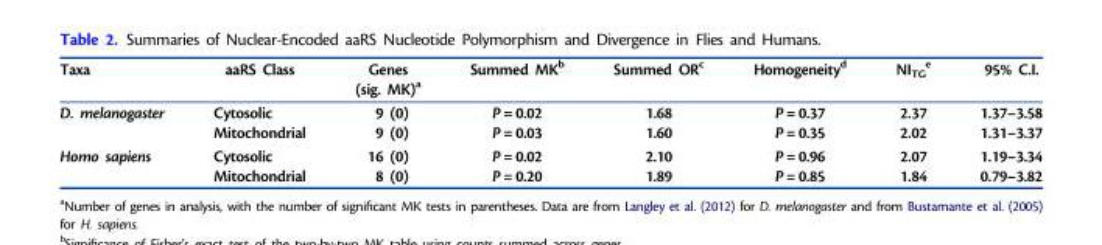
<table><thead><tr><td>Taxa</td><td>aaRS Class</td><td>Genes (sig. MK)<sup>a</sup></td><td>Summed MK<sup>b</sup></td><td>Summed OR<sup>c</sup></td><td>Homogeneity<sup>d</sup></td><td>NI<sub>TG</sub> <sup>e</sup></td><td>95% C.I.</td></tr></thead><tbody><tr><td rowspan="2">D. melanogaster</td><td>Cytosolic</td><td>9 (0)</td><td>P=0.02</td><td>1.68</td><td>P=0.37</td><td>2.37</td><td>1.37–3.58</td></tr><tr><td>Mitochondrial</td><td>9 (0)</td><td>P=0.03</td><td>1.60</td><td>P=0.35</td><td>2.02</td><td>1.31–3.37</td></tr><tr><td rowspan="2">Homo sapiens</td><td>Cytosolic</td><td>16 (0)</td><td>P=0.02</td><td>2.10</td><td>P=0.96</td><td>2.07</td><td>1.19–3.34</td></tr><tr><td>Mitochondrial</td><td>8 (0)</td><td>P=0.20</td><td>1.89</td><td>P=0.85</td><td>1.84</td><td>0.79–3.82</td></tr></tbody></table>